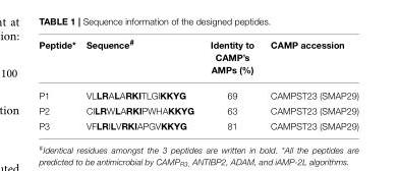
<table><thead><tr><td>Peptide*</td><td>Sequence<sup>#</sup></td><td>Identity to CAMP’s AMPs (%)</td><td>CAMP accession</td></tr></thead><tbody><tr><td>P1</td><td>VLLRALARKITLGIKKYG</td><td>69</td><td>CAMPST23 (SMAP29)</td></tr><tr><td>P2</td><td>CILRWLARKIPWHAKKYG</td><td>63</td><td>CAMPST23 (SMAP29)</td></tr><tr><td>P3</td><td>VFLRILVRKIAPGVKKYG</td><td>81</td><td>CAMPST23 (SMAP29)</td></tr></tbody></table>